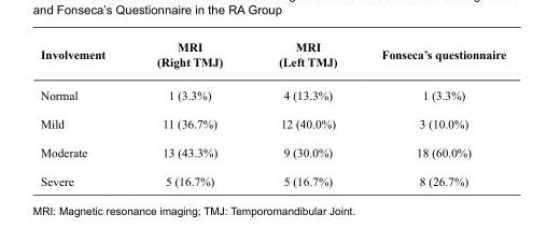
<table><thead><tr><td>Involvement</td><td>MRI (Right TMJ)</td><td>MRI (Left TMJ)</td><td>Fonseca’s questionnaire</td></tr></thead><tbody><tr><td>Normal</td><td>1 (3.3%)</td><td>4 (13.3%)</td><td>1 (3.3%)</td></tr><tr><td>Mild</td><td>11 (36.7%)</td><td>12 (40.0%)</td><td>3 (10.0%)</td></tr><tr><td>Moderate</td><td>13 (43.3%)</td><td>9 (30.0%)</td><td>18 (60.0%)</td></tr><tr><td>Severe</td><td>5 (16.7%)</td><td>5 (16.7%)</td><td>8 (26.7%)</td></tr></tbody></table>